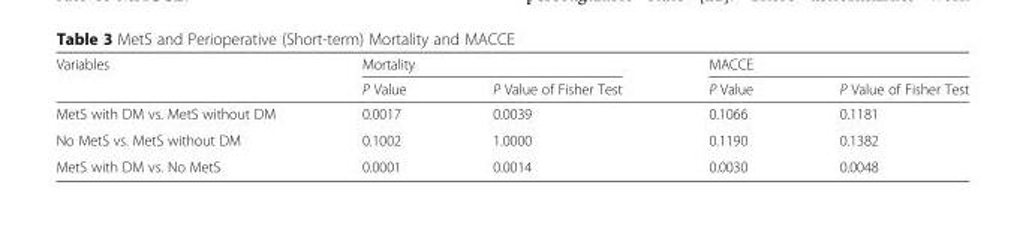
<table><thead><tr><td rowspan="2">Variables</td><td colspan="2">Mortality</td><td colspan="2">MACCE</td></tr><tr><td>P Value</td><td>P Value of Fisher Test</td><td>P Value</td><td>P Value of Fisher Test</td></tr></thead><tbody><tr><td>MetS with DM vs. MetS without DM</td><td>0.0017</td><td>0.0039</td><td>0.1066</td><td>0.1181</td></tr><tr><td>No MetS vs. MetS without DM</td><td>0.1002</td><td>1.0000</td><td>0.1190</td><td>0.1382</td></tr><tr><td>MetS with DM vs. No MetS</td><td>0.0001</td><td>0.0014</td><td>0.0030</td><td>0.0048</td></tr></tbody></table>